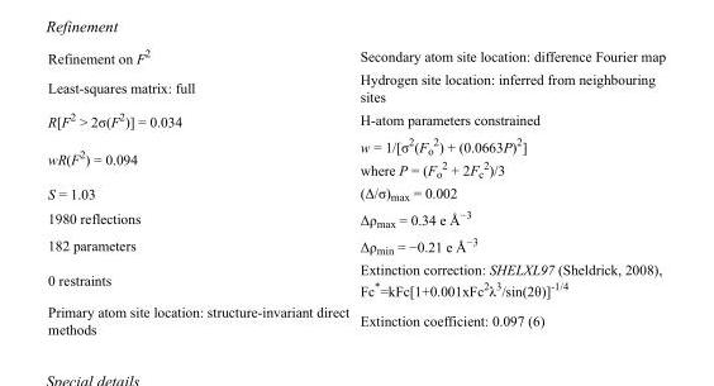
<table><tbody><tr><td>Refinement on F<sup>2</sup></td><td>Secondary atom site location: difference Fourier map</td></tr><tr><td>Least-squares matrix: full</td><td>Hydrogen site location: inferred from neighbouring sites</td></tr><tr><td>R[F<sup>2</sup> &gt; 2σ(F<sup>2</sup>)] = 0.034</td><td>H-atom parameters constrained</td></tr><tr><td>wR(F<sup>2</sup>) = 0.094</td><td>w = 1/[σ<sup>2</sup>(F<sub>o</sub> <sup>2</sup>) + (0.0663P)<sup>2</sup>] where P = (F<sub>o</sub> <sup>2</sup> + 2F<sub>c</sub> <sup>2</sup>)/3</td></tr><tr><td>S = 1.03</td><td>(Δ/σ)<sub>max</sub> = 0.002</td></tr><tr><td>1980 reflections</td><td>Δρ<sub>max</sub> = 0.34 e Å<sup>−3</sup></td></tr><tr><td>182 parameters</td><td>Δρ<sub>min</sub> = −0.21 e Å<sup>−3</sup></td></tr><tr><td>0 restraints</td><td>Extinction correction: SHELXL97 (Sheldrick, 2008), Fc*=kFc[1+0.001xFc<sup>2</sup>λ<sup>3</sup>/sin(2θ)]<sup>-1/4</sup></td></tr><tr><td>Primary atom site location: structure-invariant direct methods</td><td>Extinction coefficient: 0.097 (6)</td></tr></tbody></table>